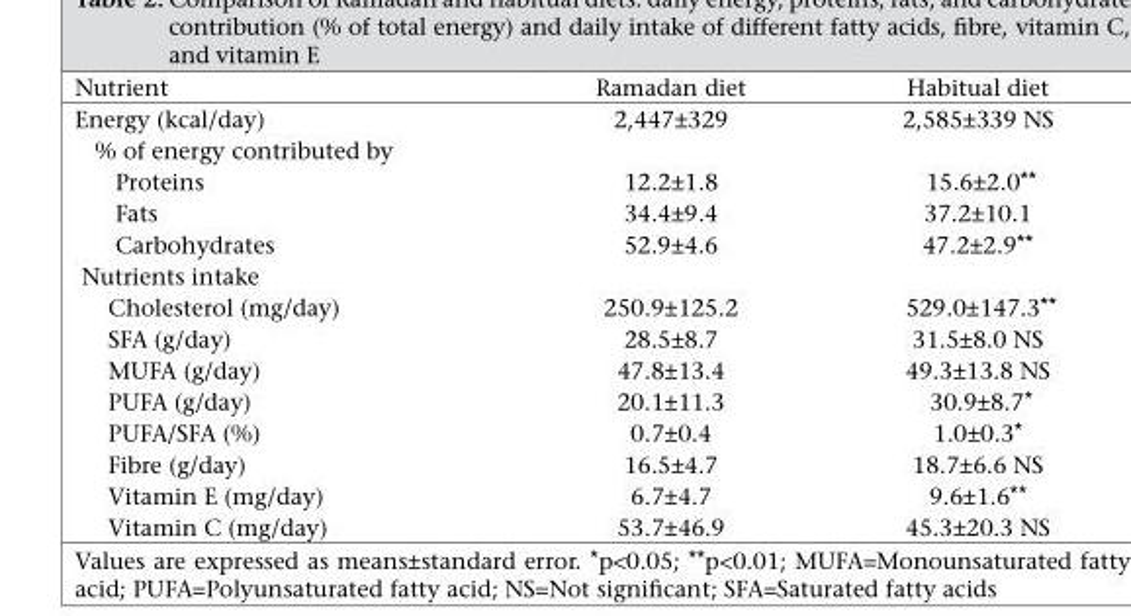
<table><thead><tr><td>Nutrient</td><td>Ramadan diet</td><td>Habitual diet</td></tr></thead><tbody><tr><td>Energy (kcal/day)</td><td>2,447±329</td><td>2,585±339 NS</td></tr><tr><td colspan="3">% of energy contributed by</td></tr><tr><td>Proteins</td><td>12.2±1.8</td><td>15.6±2.0**</td></tr><tr><td>Fats</td><td>34.4±9.4</td><td>37.2±10.1</td></tr><tr><td>Carbohydrates</td><td>52.9±4.6</td><td>47.2±2.9**</td></tr><tr><td colspan="3">Nutrients intake</td></tr><tr><td>Cholesterol (mg/day)</td><td>250.9±125.2</td><td>529.0±147.3**</td></tr><tr><td>SFA (g/day)</td><td>28.5±8.7</td><td>31.5±8.0 NS</td></tr><tr><td>MUFA (g/day)</td><td>47.8±13.4</td><td>49.3±13.8 NS</td></tr><tr><td>PUFA (g/day)</td><td>20.1±11.3</td><td>30.9±8.7*</td></tr><tr><td>PUFA/SFA (%)</td><td>0.7±0.4</td><td>1.0±0.3*</td></tr><tr><td>Fibre (g/day)</td><td>16.5±4.7</td><td>18.7±6.6 NS</td></tr><tr><td>Vitamin E (mg/day)</td><td>6.7±4.7</td><td>9.6±1.6**</td></tr><tr><td>Vitamin C (mg/day)</td><td>53.7±46.9</td><td>45.3±20.3 NS</td></tr></tbody></table>